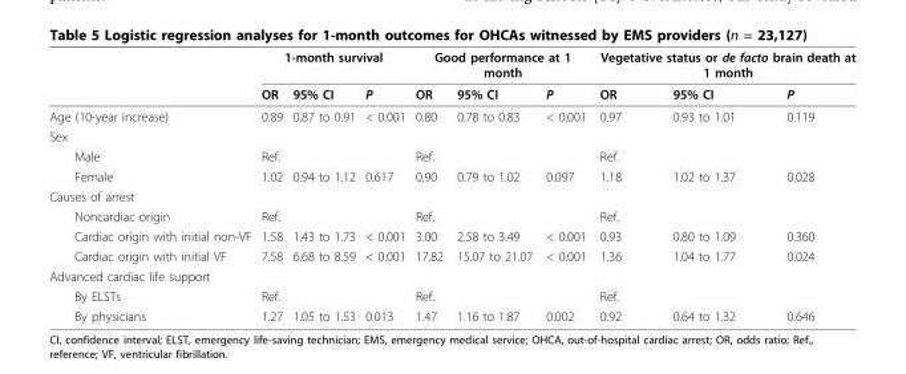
<table><thead><tr><td rowspan="2"></td><td colspan="3">1-month survival</td><td colspan="3">Good performance at 1 month</td><td colspan="3">Vegetative status or de facto brain death at 1 month</td></tr><tr><td>OR</td><td>95% CI</td><td>P</td><td>OR</td><td>95% CI</td><td>P</td><td>OR</td><td>95% CI</td><td>P</td></tr></thead><tbody><tr><td>Age (10-year increase)</td><td>0.89</td><td>0.87 to 0.91</td><td>&lt; 0.001</td><td>0.80</td><td>0.78 to 0.83</td><td>&lt; 0.001</td><td>0.97</td><td>0.93 to 1.01</td><td>0.119</td></tr><tr><td colspan="10">Sex</td></tr><tr><td>Male</td><td>Ref.</td><td></td><td></td><td>Ref.</td><td></td><td></td><td>Ref.</td><td></td><td></td></tr><tr><td>Female</td><td>1.02</td><td>0.94 to 1.12</td><td>0.617</td><td>0.90</td><td>0.79 to 1.02</td><td>0.097</td><td>1.18</td><td>1.02 to 1.37</td><td>0.028</td></tr><tr><td colspan="10">Causes of arrest</td></tr><tr><td>Noncardiac origin</td><td>Ref.</td><td></td><td></td><td>Ref.</td><td></td><td></td><td>Ref.</td><td></td><td></td></tr><tr><td>Cardiac origin with initial non-VF</td><td>1.58</td><td>1.43 to 1.73</td><td>&lt; 0.001</td><td>3.00</td><td>2.58 to 3.49</td><td>&lt; 0.001</td><td>0.93</td><td>0.80 to 1.09</td><td>0.360</td></tr><tr><td>Cardiac origin with initial VF</td><td>7.58</td><td>6.68 to 8.59</td><td>&lt; 0.001</td><td>17.82</td><td>15.07 to 21.07</td><td>&lt; 0.001</td><td>1.36</td><td>1.04 to 1.77</td><td>0.024</td></tr><tr><td colspan="10">Advanced cardiac life support</td></tr><tr><td>By ELSTs</td><td>Ref.</td><td></td><td></td><td>Ref.</td><td></td><td></td><td>Ref.</td><td></td><td></td></tr><tr><td>By physicians</td><td>1.27</td><td>1.05 to 1.53</td><td>0.013</td><td>1.47</td><td>1.16 to 1.87</td><td>0.002</td><td>0.92</td><td>0.64 to 1.32</td><td>0.646</td></tr></tbody></table>